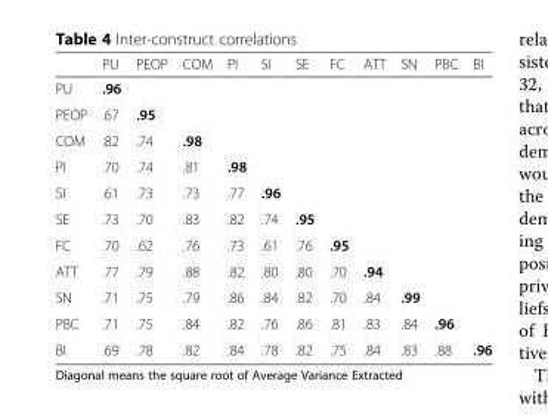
<table><thead><tr><td></td><td>PU</td><td>PEOP</td><td>COM</td><td>PI</td><td>SI</td><td>SE</td><td>FC</td><td>ATT</td><td>SN</td><td>PBC</td><td>BI</td></tr></thead><tbody><tr><td>PU</td><td>.96</td><td></td><td></td><td></td><td></td><td></td><td></td><td></td><td></td><td></td><td></td></tr><tr><td>PEOP</td><td>.67</td><td>.95</td><td></td><td></td><td></td><td></td><td></td><td></td><td></td><td></td><td></td></tr><tr><td>COM</td><td>.82</td><td>.74</td><td>.98</td><td></td><td></td><td></td><td></td><td></td><td></td><td></td><td></td></tr><tr><td>PI</td><td>.70</td><td>.74</td><td>.81</td><td>.98</td><td></td><td></td><td></td><td></td><td></td><td></td><td></td></tr><tr><td>SI</td><td>.61</td><td>.73</td><td>.73</td><td>.77</td><td>.96</td><td></td><td></td><td></td><td></td><td></td><td></td></tr><tr><td>SE</td><td>.73</td><td>.70</td><td>.83</td><td>.82</td><td>.74</td><td>.95</td><td></td><td></td><td></td><td></td><td></td></tr><tr><td>FC</td><td>.70</td><td>.62</td><td>.76</td><td>.73</td><td>.61</td><td>.76</td><td>.95</td><td></td><td></td><td></td><td></td></tr><tr><td>ATT</td><td>.77</td><td>.79</td><td>.88</td><td>.82</td><td>.80</td><td>.80</td><td>.70</td><td>.94</td><td></td><td></td><td></td></tr><tr><td>SN</td><td>.71</td><td>.75</td><td>.79</td><td>.86</td><td>.84</td><td>.82</td><td>.70</td><td>.84</td><td>.99</td><td></td><td></td></tr><tr><td>PBC</td><td>.71</td><td>.75</td><td>.84</td><td>.82</td><td>.76</td><td>.86</td><td>.81</td><td>.83</td><td>.84</td><td>.96</td><td></td></tr><tr><td>BI</td><td>.69</td><td>.78</td><td>.82</td><td>.84</td><td>.78</td><td>.82</td><td>.75</td><td>.84</td><td>.83</td><td>.88</td><td>.96</td></tr></tbody></table>